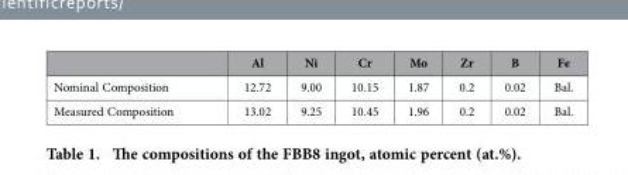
<table><thead><tr><td></td><td>Al</td><td>Ni</td><td>Cr</td><td>Mo</td><td>Zr</td><td>B</td><td>Fe</td></tr></thead><tbody><tr><td>Nominal Composition</td><td>12.72</td><td>9.00</td><td>10.15</td><td>1.87</td><td>0.2</td><td>0.02</td><td>Bal.</td></tr><tr><td>Measured Composition</td><td>13.02</td><td>9.25</td><td>10.45</td><td>1.96</td><td>0.2</td><td>0.02</td><td>Bal.</td></tr></tbody></table>